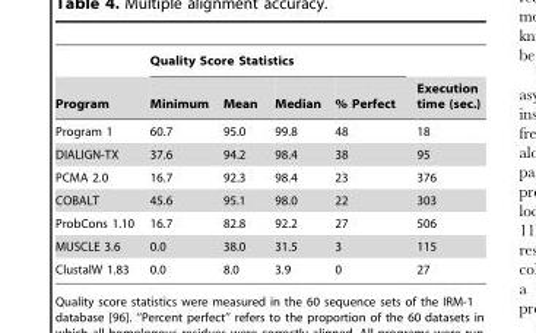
<table><thead><tr><td rowspan="2">Program</td><td colspan="4">Quality Score Statistics</td><td rowspan="2">Execution time (sec.)</td></tr><tr><td>Minimum</td><td>Mean</td><td>Median</td><td>% Perfect</td></tr></thead><tbody><tr><td>Program 1</td><td>60.7</td><td>95.0</td><td>99.8</td><td>48</td><td>18</td></tr><tr><td>DIALIGN-TX</td><td>37.6</td><td>94.2</td><td>98.4</td><td>38</td><td>95</td></tr><tr><td>PCMA 2.0</td><td>16.7</td><td>92.3</td><td>98.4</td><td>23</td><td>376</td></tr><tr><td>COBALT</td><td>45.6</td><td>95.1</td><td>98.0</td><td>22</td><td>303</td></tr><tr><td>ProbCons 1.10</td><td>16.7</td><td>82.8</td><td>92.2</td><td>27</td><td>506</td></tr><tr><td>MUSCLE 3.6</td><td>0.0</td><td>38.0</td><td>31.5</td><td>3</td><td>115</td></tr><tr><td>ClustalW 1.83</td><td>0.0</td><td>8.0</td><td>3.9</td><td>0</td><td>27</td></tr></tbody></table>